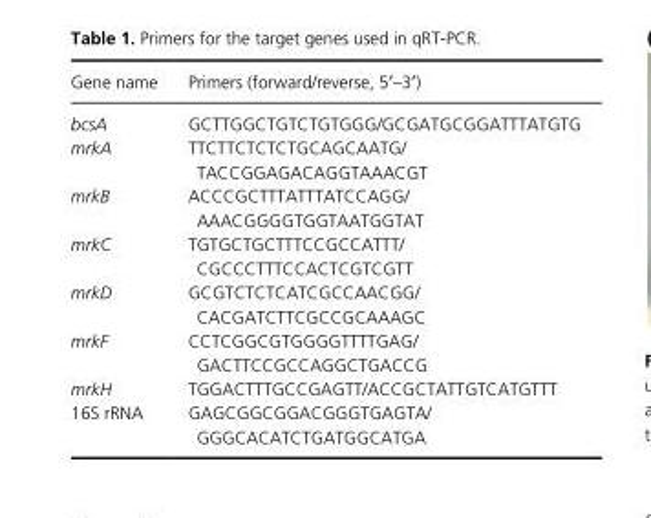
<table><thead><tr><td>Gene name</td><td>Primers (forward/reverse, 5′–3′)</td></tr></thead><tbody><tr><td>bcsA</td><td>GCTTGGCTGTCTGTGGG/GCGATGCGGATTTATGTG</td></tr><tr><td>mrkA</td><td>TTCTTCTCTCTGCAGCAATG/ TACCGGAGACAGGTAAACGT</td></tr><tr><td>mrkB</td><td>ACCCGCTTTATTTATCCAGG/ AAACGGGGTGGTAATGGTAT</td></tr><tr><td>mrkC</td><td>TGTGCTGCTTTCCGCCATTT/ CGCCCTTTCCACTCGTCGTT</td></tr><tr><td>mrkD</td><td>GCGTCTCTCATCGCCAACGG/ CACGATCTTCGCCGCAAAGC</td></tr><tr><td>mrkF</td><td>CCTCGGCGTGGGGTTTTGAG/ GACTTCCGCCAGGCTGACCG</td></tr><tr><td>mrkH</td><td>TGGACTTTGCCGAGTT/ACCGCTATTGTCATGTTT</td></tr><tr><td>16S rRNA</td><td>GAGCGGCGGACGGGTGAGTA/ GGGCACATCTGATGGCATGA</td></tr></tbody></table>